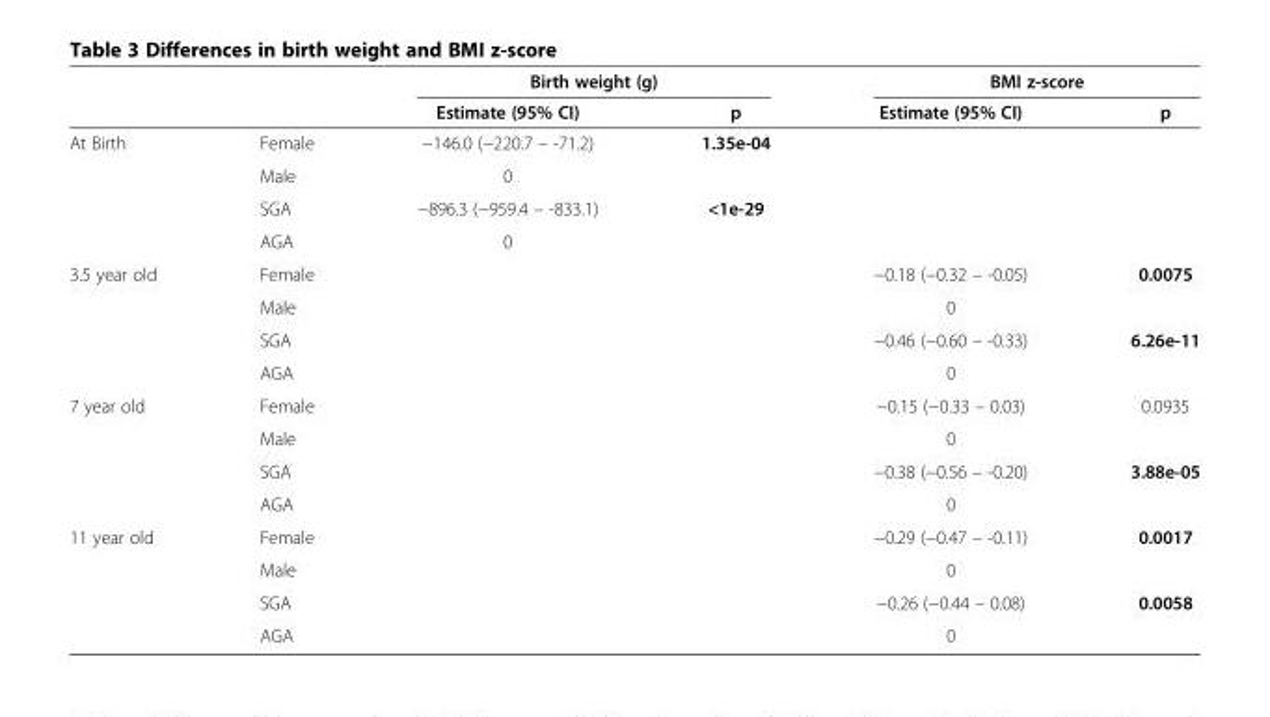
<table><thead><tr><td rowspan="2"></td><td rowspan="2"></td><td colspan="2">Birth weight (g)</td><td colspan="2">BMI z-score</td></tr><tr><td>Estimate (95% CI)</td><td>p</td><td>Estimate (95% CI)</td><td>p</td></tr></thead><tbody><tr><td rowspan="4">At Birth</td><td>Female</td><td>−146.0 (−220.7 – -71.2)</td><td>1.35e-04</td><td></td><td></td></tr><tr><td>Male</td><td>0</td><td></td><td></td><td></td></tr><tr><td>SGA</td><td>−896.3 (−959.4 – -833.1)</td><td>&lt;1e-29</td><td></td><td></td></tr><tr><td>AGA</td><td>0</td><td></td><td></td><td></td></tr><tr><td rowspan="4">3.5 year old</td><td>Female</td><td></td><td></td><td>−0.18 (−0.32 – -0.05)</td><td>0.0075</td></tr><tr><td>Male</td><td></td><td></td><td>0</td><td></td></tr><tr><td>SGA</td><td></td><td></td><td>−0.46 (−0.60 – -0.33)</td><td>6.26e-11</td></tr><tr><td>AGA</td><td></td><td></td><td>0</td><td></td></tr><tr><td rowspan="4">7 year old</td><td>Female</td><td></td><td></td><td>−0.15 (−0.33 – 0.03)</td><td>0.0935</td></tr><tr><td>Male</td><td></td><td></td><td>0</td><td></td></tr><tr><td>SGA</td><td></td><td></td><td>−0.38 (−0.56 – -0.20)</td><td>3.88e-05</td></tr><tr><td>AGA</td><td></td><td></td><td>0</td><td></td></tr><tr><td rowspan="4">11 year old</td><td>Female</td><td></td><td></td><td>−0.29 (−0.47 – -0.11)</td><td>0.0017</td></tr><tr><td>Male</td><td></td><td></td><td>0</td><td></td></tr><tr><td>SGA</td><td></td><td></td><td>−0.26 (−0.44 – 0.08)</td><td>0.0058</td></tr><tr><td>AGA</td><td></td><td></td><td>0</td><td></td></tr></tbody></table>